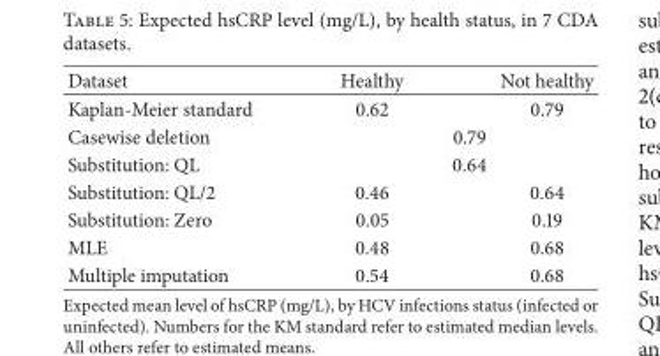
<table><thead><tr><td>Dataset</td><td>Healthy</td><td>Not healthy</td></tr></thead><tbody><tr><td>Kaplan-Meier standard</td><td>0.62</td><td>0.79</td></tr><tr><td>Casewise deletion</td><td colspan="2">0.79</td></tr><tr><td>Substitution: QL</td><td colspan="2">0.64</td></tr><tr><td>Substitution: QL/2</td><td>0.46</td><td>0.64</td></tr><tr><td>Substitution: Zero</td><td>0.05</td><td>0.19</td></tr><tr><td>MLE</td><td>0.48</td><td>0.68</td></tr><tr><td>Multiple imputation</td><td>0.54</td><td>0.68</td></tr></tbody></table>